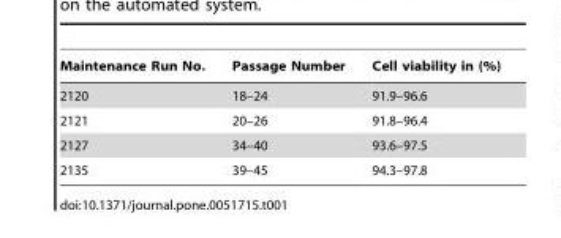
<table><thead><tr><td>Maintenance Run No.</td><td>Passage Number</td><td>Cell viability in (%)</td></tr></thead><tbody><tr><td>2120</td><td>18–24</td><td>91.9–96.6</td></tr><tr><td>2121</td><td>20–26</td><td>91.8–96.4</td></tr><tr><td>2127</td><td>34–40</td><td>93.6–97.5</td></tr><tr><td>2135</td><td>39–45</td><td>94.3–97.8</td></tr></tbody></table>